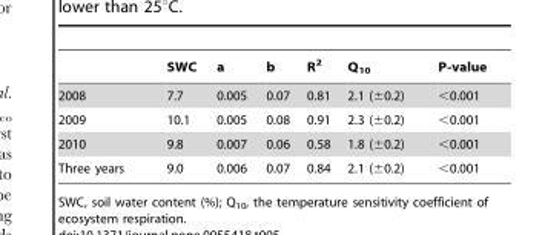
<table><thead><tr><td></td><td>SWC</td><td>a</td><td>b</td><td>R<sup>2</sup></td><td>Q<sub>10</sub></td><td>P-value</td></tr></thead><tbody><tr><td>2008</td><td>7.7</td><td>0.005</td><td>0.07</td><td>0.81</td><td>2.1 (±0.2)</td><td>&lt;0.001</td></tr><tr><td>2009</td><td>10.1</td><td>0.005</td><td>0.08</td><td>0.91</td><td>2.3 (±0.2)</td><td>&lt;0.001</td></tr><tr><td>2010</td><td>9.8</td><td>0.007</td><td>0.06</td><td>0.58</td><td>1.8 (±0.2)</td><td>&lt;0.001</td></tr><tr><td>Three years</td><td>9.0</td><td>0.006</td><td>0.07</td><td>0.84</td><td>2.1 (±0.2)</td><td>&lt;0.001</td></tr></tbody></table>